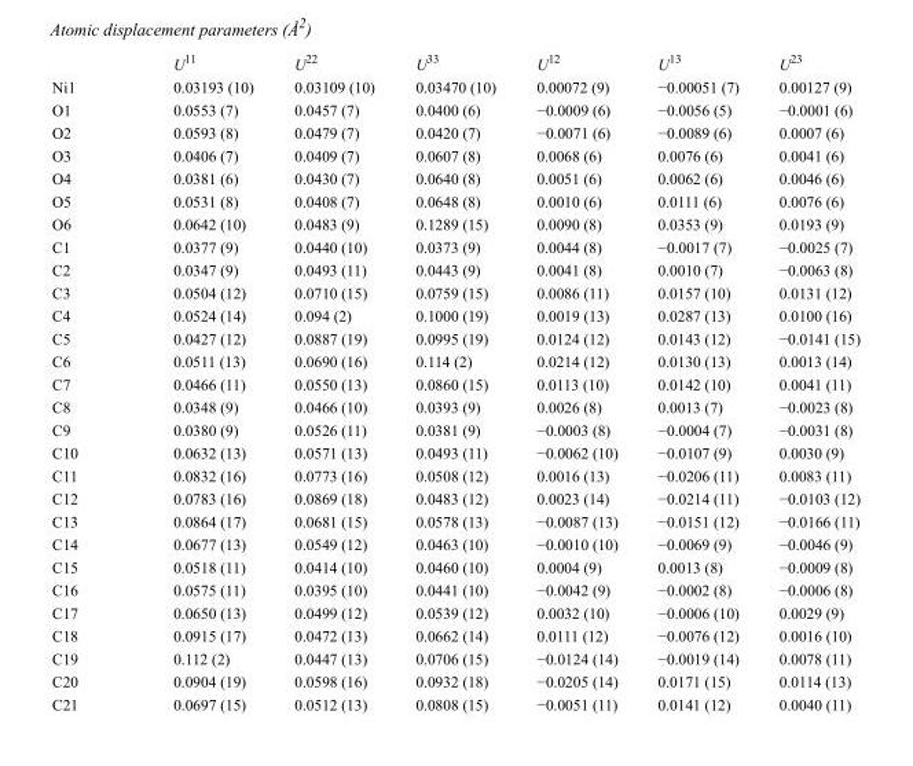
<table><thead><tr><td></td><td>U<sup>11</sup></td><td>U<sup>22</sup></td><td>U<sup>33</sup></td><td>U<sup>12</sup></td><td>U<sup>13</sup></td><td>U<sup>23</sup></td></tr></thead><tbody><tr><td>Ni1</td><td>0.03193 (10)</td><td>0.03109 (10)</td><td>0.03470 (10)</td><td>0.00072 (9)</td><td>−0.00051 (7)</td><td>0.00127 (9)</td></tr><tr><td>O1</td><td>0.0553 (7)</td><td>0.0457 (7)</td><td>0.0400 (6)</td><td>−0.0009 (6)</td><td>−0.0056 (5)</td><td>−0.0001 (6)</td></tr><tr><td>O2</td><td>0.0593 (8)</td><td>0.0479 (7)</td><td>0.0420 (7)</td><td>−0.0071 (6)</td><td>−0.0089 (6)</td><td>0.0007 (6)</td></tr><tr><td>O3</td><td>0.0406 (7)</td><td>0.0409 (7)</td><td>0.0607 (8)</td><td>0.0068 (6)</td><td>0.0076 (6)</td><td>0.0041 (6)</td></tr><tr><td>O4</td><td>0.0381 (6)</td><td>0.0430 (7)</td><td>0.0640 (8)</td><td>0.0051 (6)</td><td>0.0062 (6)</td><td>0.0046 (6)</td></tr><tr><td>O5</td><td>0.0531 (8)</td><td>0.0408 (7)</td><td>0.0648 (8)</td><td>0.0010 (6)</td><td>0.0111 (6)</td><td>0.0076 (6)</td></tr><tr><td>O6</td><td>0.0642 (10)</td><td>0.0483 (9)</td><td>0.1289 (15)</td><td>0.0090 (8)</td><td>0.0353 (9)</td><td>0.0193 (9)</td></tr><tr><td>C1</td><td>0.0377 (9)</td><td>0.0440 (10)</td><td>0.0373 (9)</td><td>0.0044 (8)</td><td>−0.0017 (7)</td><td>−0.0025 (7)</td></tr><tr><td>C2</td><td>0.0347 (9)</td><td>0.0493 (11)</td><td>0.0443 (9)</td><td>0.0041 (8)</td><td>0.0010 (7)</td><td>−0.0063 (8)</td></tr><tr><td>C3</td><td>0.0504 (12)</td><td>0.0710 (15)</td><td>0.0759 (15)</td><td>0.0086 (11)</td><td>0.0157 (10)</td><td>0.0131 (12)</td></tr><tr><td>C4</td><td>0.0524 (14)</td><td>0.094 (2)</td><td>0.1000 (19)</td><td>0.0019 (13)</td><td>0.0287 (13)</td><td>0.0100 (16)</td></tr><tr><td>C5</td><td>0.0427 (12)</td><td>0.0887 (19)</td><td>0.0995 (19)</td><td>0.0124 (12)</td><td>0.0143 (12)</td><td>−0.0141 (15)</td></tr><tr><td>C6</td><td>0.0511 (13)</td><td>0.0690 (16)</td><td>0.114 (2)</td><td>0.0214 (12)</td><td>0.0130 (13)</td><td>0.0013 (14)</td></tr><tr><td>C7</td><td>0.0466 (11)</td><td>0.0550 (13)</td><td>0.0860 (15)</td><td>0.0113 (10)</td><td>0.0142 (10)</td><td>0.0041 (11)</td></tr><tr><td>C8</td><td>0.0348 (9)</td><td>0.0466 (10)</td><td>0.0393 (9)</td><td>0.0026 (8)</td><td>0.0013 (7)</td><td>−0.0023 (8)</td></tr><tr><td>C9</td><td>0.0380 (9)</td><td>0.0526 (11)</td><td>0.0381 (9)</td><td>−0.0003 (8)</td><td>−0.0004 (7)</td><td>−0.0031 (8)</td></tr><tr><td>C10</td><td>0.0632 (13)</td><td>0.0571 (13)</td><td>0.0493 (11)</td><td>−0.0062 (10)</td><td>−0.0107 (9)</td><td>0.0030 (9)</td></tr><tr><td>C11</td><td>0.0832 (16)</td><td>0.0773 (16)</td><td>0.0508 (12)</td><td>0.0016 (13)</td><td>−0.0206 (11)</td><td>0.0083 (11)</td></tr><tr><td>C12</td><td>0.0783 (16)</td><td>0.0869 (18)</td><td>0.0483 (12)</td><td>0.0023 (14)</td><td>−0.0214 (11)</td><td>−0.0103 (12)</td></tr><tr><td>C13</td><td>0.0864 (17)</td><td>0.0681 (15)</td><td>0.0578 (13)</td><td>−0.0087 (13)</td><td>−0.0151 (12)</td><td>−0.0166 (11)</td></tr><tr><td>C14</td><td>0.0677 (13)</td><td>0.0549 (12)</td><td>0.0463 (10)</td><td>−0.0010 (10)</td><td>−0.0069 (9)</td><td>−0.0046 (9)</td></tr><tr><td>C15</td><td>0.0518 (11)</td><td>0.0414 (10)</td><td>0.0460 (10)</td><td>0.0004 (9)</td><td>0.0013 (8)</td><td>−0.0009 (8)</td></tr><tr><td>C16</td><td>0.0575 (11)</td><td>0.0395 (10)</td><td>0.0441 (10)</td><td>−0.0042 (9)</td><td>−0.0002 (8)</td><td>−0.0006 (8)</td></tr><tr><td>C17</td><td>0.0650 (13)</td><td>0.0499 (12)</td><td>0.0539 (12)</td><td>0.0032 (10)</td><td>−0.0006 (10)</td><td>0.0029 (9)</td></tr><tr><td>C18</td><td>0.0915 (17)</td><td>0.0472 (13)</td><td>0.0662 (14)</td><td>0.0111 (12)</td><td>−0.0076 (12)</td><td>0.0016 (10)</td></tr><tr><td>C19</td><td>0.112 (2)</td><td>0.0447 (13)</td><td>0.0706 (15)</td><td>−0.0124 (14)</td><td>−0.0019 (14)</td><td>0.0078 (11)</td></tr><tr><td>C20</td><td>0.0904 (19)</td><td>0.0598 (16)</td><td>0.0932 (18)</td><td>−0.0205 (14)</td><td>0.0171 (15)</td><td>0.0114 (13)</td></tr><tr><td>C21</td><td>0.0697 (15)</td><td>0.0512 (13)</td><td>0.0808 (15)</td><td>−0.0051 (11)</td><td>0.0141 (12)</td><td>0.0040 (11)</td></tr></tbody></table>